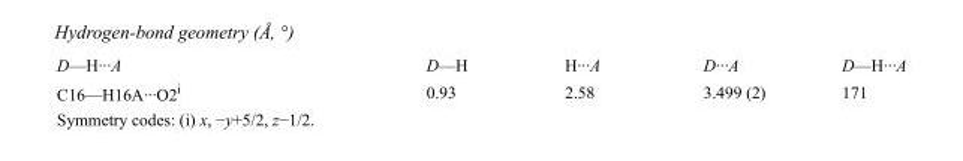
<table><tbody><tr><td>D—H···A</td><td>D—H</td><td>H···A</td><td>D···A</td><td>D—H···A</td></tr><tr><td>C16—H16A···O2<sup>i</sup></td><td>0.93</td><td>2.58</td><td>3.499 (2)</td><td>171</td></tr></tbody></table>